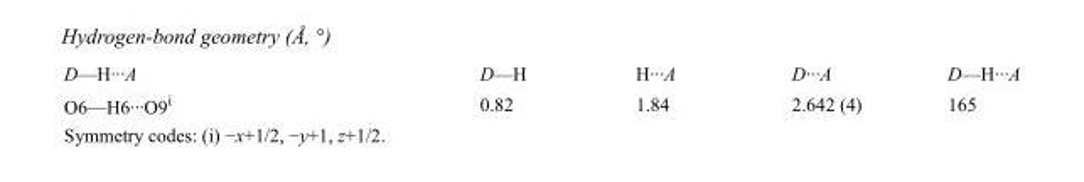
<table><tbody><tr><td>D—H···A</td><td>D—H</td><td>H···A</td><td>D···A</td><td>D—H···A</td></tr><tr><td>O6—H6···O9<sup>i</sup></td><td>0.82</td><td>1.84</td><td>2.642 (4)</td><td>165</td></tr></tbody></table>